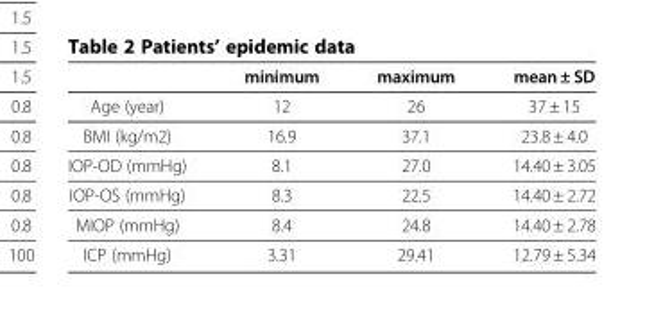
<table><thead><tr><td></td><td>minimum</td><td>maximum</td><td>mean ± SD</td></tr></thead><tbody><tr><td>Age (year)</td><td>12</td><td>26</td><td>37 ± 15</td></tr><tr><td>BMI (kg/m2)</td><td>16.9</td><td>37.1</td><td>23.8 ± 4.0</td></tr><tr><td>IOP-OD (mmHg)</td><td>8.1</td><td>27.0</td><td>14.40 ± 3.05</td></tr><tr><td>IOP-OS (mmHg)</td><td>8.3</td><td>22.5</td><td>14.40 ± 2.72</td></tr><tr><td>MIOP (mmHg)</td><td>8.4</td><td>24.8</td><td>14.40 ± 2.78</td></tr><tr><td>ICP (mmHg)</td><td>3.31</td><td>29.41</td><td>12.79 ± 5.34</td></tr></tbody></table>